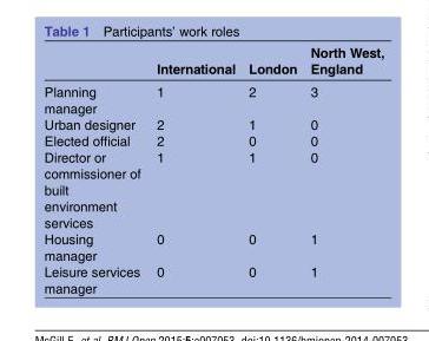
<table><thead><tr><td></td><td>International</td><td>London</td><td>North West, England</td></tr></thead><tbody><tr><td>Planning manager</td><td>1</td><td>2</td><td>3</td></tr><tr><td>Urban designer</td><td>2</td><td>1</td><td>0</td></tr><tr><td>Elected official</td><td>2</td><td>0</td><td>0</td></tr><tr><td>Director or commissioner of built environment services</td><td>1</td><td>1</td><td>0</td></tr><tr><td>Housing manager</td><td>0</td><td>0</td><td>1</td></tr><tr><td>Leisure services manager</td><td>0</td><td>0</td><td>1</td></tr></tbody></table>